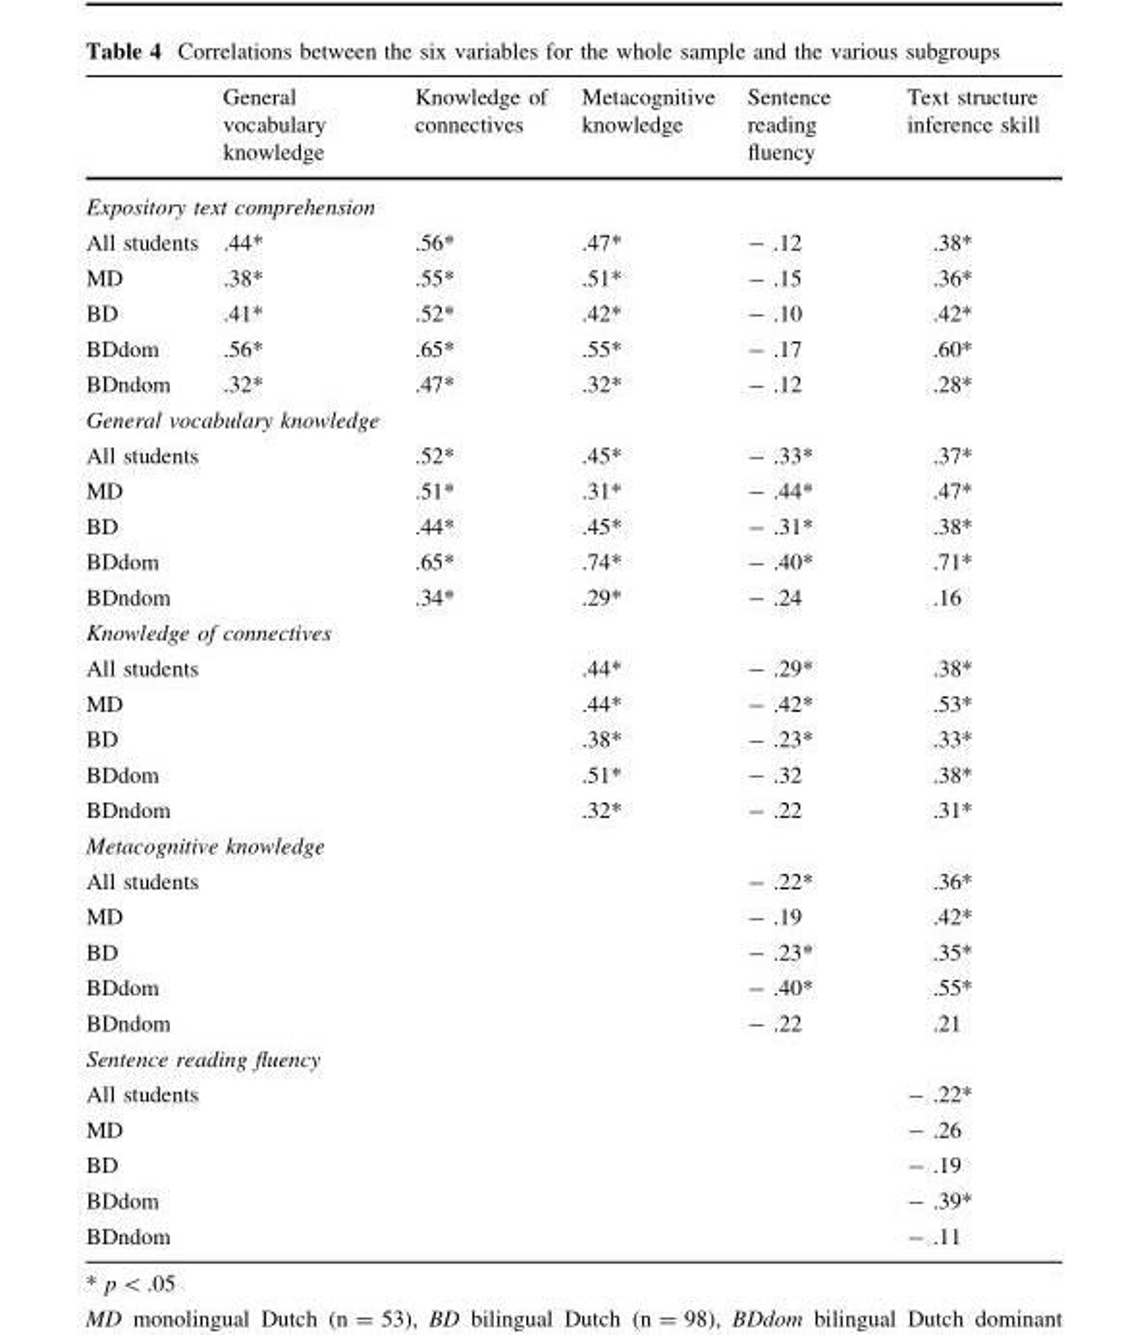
<table><thead><tr><td></td><td>General vocabulary knowledge</td><td>Knowledge of connectives</td><td>Metacognitive knowledge</td><td>Sentence reading fluency</td><td>Text structure inference skill</td></tr></thead><tbody><tr><td colspan="6">Expository text comprehension</td></tr><tr><td>All students</td><td>.44*</td><td>.56*</td><td>.47*</td><td>- .12</td><td>.38*</td></tr><tr><td>MD</td><td>.38*</td><td>.55*</td><td>.51*</td><td>- .15</td><td>.36*</td></tr><tr><td>BD</td><td>.41*</td><td>.52*</td><td>.42*</td><td>- .10</td><td>.42*</td></tr><tr><td>BDdom</td><td>.56*</td><td>.65*</td><td>.55*</td><td>- .17</td><td>.60*</td></tr><tr><td>BDndom</td><td>.32*</td><td>.47*</td><td>.32*</td><td>- .12</td><td>.28*</td></tr><tr><td colspan="6">General vocabulary knowledge</td></tr><tr><td>All students</td><td></td><td>.52*</td><td>.45*</td><td>- .33*</td><td>.37*</td></tr><tr><td>MD</td><td></td><td>.51*</td><td>.31*</td><td>- .44*</td><td>.47*</td></tr><tr><td>BD</td><td></td><td>.44*</td><td>.45*</td><td>- .31*</td><td>.38*</td></tr><tr><td>BDdom</td><td></td><td>.65*</td><td>.74*</td><td>- .40*</td><td>.71*</td></tr><tr><td>BDndom</td><td></td><td>.34*</td><td>.29*</td><td>- .24</td><td>.16</td></tr><tr><td colspan="6">Knowledge of connectives</td></tr><tr><td>All students</td><td></td><td></td><td>.44*</td><td>- .29*</td><td>.38*</td></tr><tr><td>MD</td><td></td><td></td><td>.44*</td><td>- .42*</td><td>.53*</td></tr><tr><td>BD</td><td></td><td></td><td>.38*</td><td>- .23*</td><td>.33*</td></tr><tr><td>BDdom</td><td></td><td></td><td>.51*</td><td>- .32</td><td>.38*</td></tr><tr><td>BDndom</td><td></td><td></td><td>.32*</td><td>- .22</td><td>.31*</td></tr><tr><td colspan="6">Metacognitive knowledge</td></tr><tr><td>All students</td><td></td><td></td><td></td><td>- .22*</td><td>.36*</td></tr><tr><td>MD</td><td></td><td></td><td></td><td>- .19</td><td>.42*</td></tr><tr><td>BD</td><td></td><td></td><td></td><td>- .23*</td><td>.35*</td></tr><tr><td>BDdom</td><td></td><td></td><td></td><td>- .40*</td><td>.55*</td></tr><tr><td>BDndom</td><td></td><td></td><td></td><td>- .22</td><td>.21</td></tr><tr><td colspan="6">Sentence reading fluency</td></tr><tr><td>All students</td><td></td><td></td><td></td><td></td><td>- .22*</td></tr><tr><td>MD</td><td></td><td></td><td></td><td></td><td>- .26</td></tr><tr><td>BD</td><td></td><td></td><td></td><td></td><td>- .19</td></tr><tr><td>BDdom</td><td></td><td></td><td></td><td></td><td>- .39*</td></tr><tr><td>BDndom</td><td></td><td></td><td></td><td></td><td>- .11</td></tr></tbody></table>